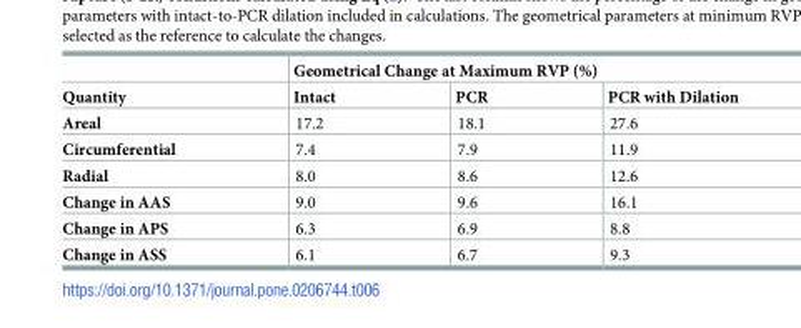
<table><thead><tr><td rowspan="2">Quantity</td><td colspan="3">Geometrical Change at Maximum RVP (%)</td></tr><tr><td>Intact</td><td>PCR</td><td>PCR with Dilation</td></tr></thead><tbody><tr><td>Areal</td><td>17.2</td><td>18.1</td><td>27.6</td></tr><tr><td>Circumferential</td><td>7.4</td><td>7.9</td><td>11.9</td></tr><tr><td>Radial</td><td>8.0</td><td>8.6</td><td>12.6</td></tr><tr><td>Change in AAS</td><td>9.0</td><td>9.6</td><td>16.1</td></tr><tr><td>Change in APS</td><td>6.3</td><td>6.9</td><td>8.8</td></tr><tr><td>Change in ASS</td><td>6.1</td><td>6.7</td><td>9.3</td></tr></tbody></table>